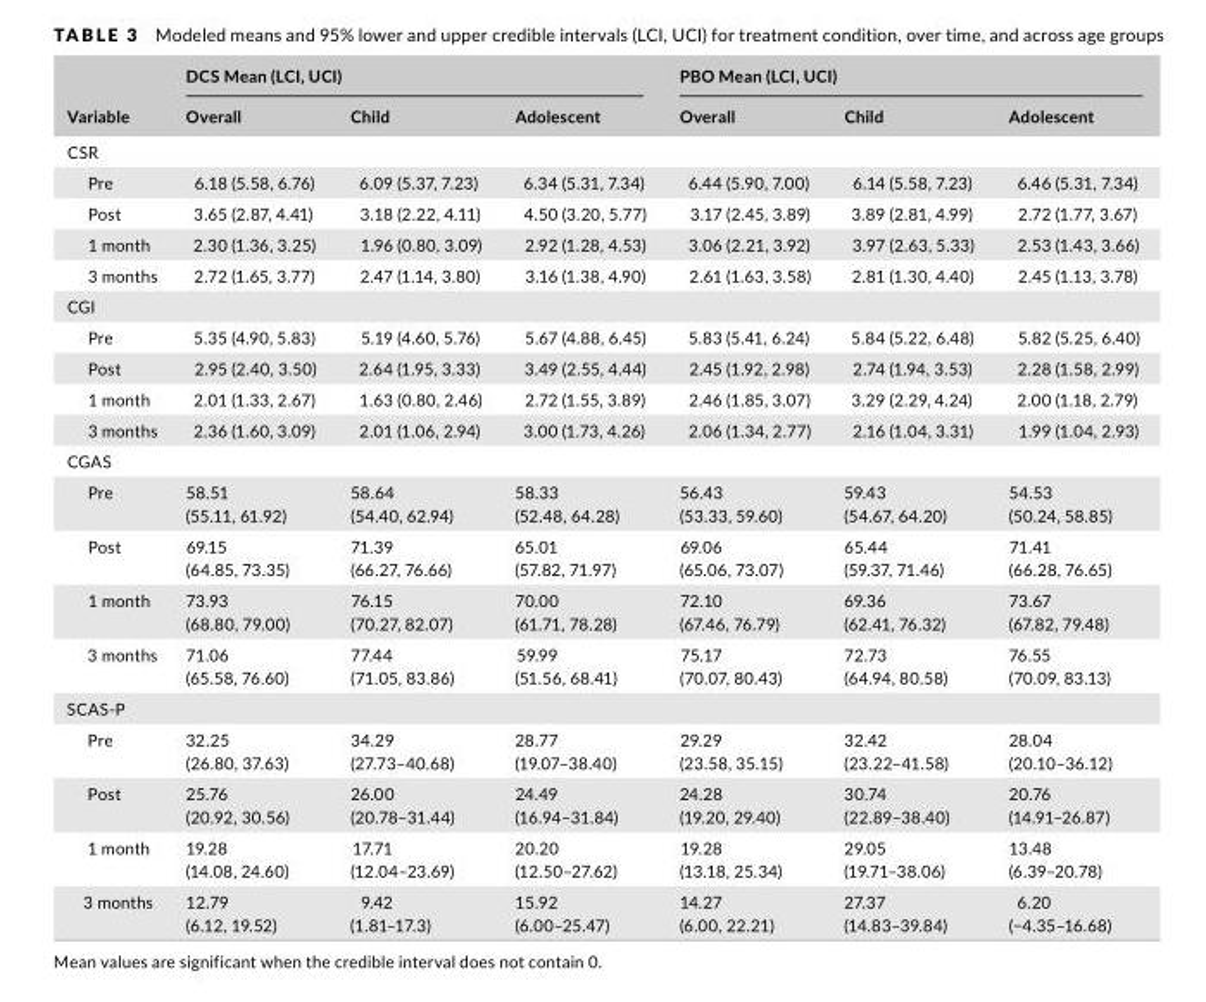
<table><thead><tr><td rowspan="2">Variable</td><td colspan="3">DCS Mean (LCI, UCI)</td><td colspan="3">PBO Mean (LCI, UCI)</td></tr><tr><td>Overall</td><td>Child</td><td>Adolescent</td><td>Overall</td><td>Child</td><td>Adolescent</td></tr></thead><tbody><tr><td colspan="7">CSR</td></tr><tr><td>Pre</td><td>6.18 (5.58, 6.76)</td><td>6.09 (5.37, 7.23)</td><td>6.34 (5.31, 7.34)</td><td>6.44 (5.90, 7.00)</td><td>6.14 (5.58, 7.23)</td><td>6.46 (5.31, 7.34)</td></tr><tr><td>Post</td><td>3.65 (2.87, 4.41)</td><td>3.18 (2.22, 4.11)</td><td>4.50 (3.20, 5.77)</td><td>3.17 (2.45, 3.89)</td><td>3.89 (2.81, 4.99)</td><td>2.72 (1.77, 3.67)</td></tr><tr><td>1 month</td><td>2.30 (1.36, 3.25)</td><td>1.96 (0.80, 3.09)</td><td>2.92 (1.28, 4.53)</td><td>3.06 (2.21, 3.92)</td><td>3.97 (2.63, 5.33)</td><td>2.53 (1.43, 3.66)</td></tr><tr><td>3 months</td><td>2.72 (1.65, 3.77)</td><td>2.47 (1.14, 3.80)</td><td>3.16 (1.38, 4.90)</td><td>2.61 (1.63, 3.58)</td><td>2.81 (1.30, 4.40)</td><td>2.45 (1.13, 3.78)</td></tr><tr><td colspan="7">CGI</td></tr><tr><td>Pre</td><td>5.35 (4.90, 5.83)</td><td>5.19 (4.60, 5.76)</td><td>5.67 (4.88, 6.45)</td><td>5.83 (5.41, 6.24)</td><td>5.84 (5.22, 6.48)</td><td>5.82 (5.25, 6.40)</td></tr><tr><td>Post</td><td>2.95 (2.40, 3.50)</td><td>2.64 (1.95, 3.33)</td><td>3.49 (2.55, 4.44)</td><td>2.45 (1.92, 2.98)</td><td>2.74 (1.94, 3.53)</td><td>2.28 (1.58, 2.99)</td></tr><tr><td>1 month</td><td>2.01 (1.33, 2.67)</td><td>1.63 (0.80, 2.46)</td><td>2.72 (1.55, 3.89)</td><td>2.46 (1.85, 3.07)</td><td>3.29 (2.29, 4.24)</td><td>2.00 (1.18, 2.79)</td></tr><tr><td>3 months</td><td>2.36 (1.60, 3.09)</td><td>2.01 (1.06, 2.94)</td><td>3.00 (1.73, 4.26)</td><td>2.06 (1.34, 2.77)</td><td>2.16 (1.04, 3.31)</td><td>1.99 (1.04, 2.93)</td></tr><tr><td colspan="7">CGAS</td></tr><tr><td>Pre</td><td>58.51 (55.11, 61.92)</td><td>58.64 (54.40, 62.94)</td><td>58.33 (52.48, 64.28)</td><td>56.43 (53.33, 59.60)</td><td>59.43 (54.67, 64.20)</td><td>54.53 (50.24, 58.85)</td></tr><tr><td>Post</td><td>69.15 (64.85, 73.35)</td><td>71.39 (66.27, 76.66)</td><td>65.01 (57.82, 71.97)</td><td>69.06 (65.06, 73.07)</td><td>65.44 (59.37, 71.46)</td><td>71.41 (66.28, 76.65)</td></tr><tr><td>1 month</td><td>73.93 (68.80, 79.00)</td><td>76.15 (70.27, 82.07)</td><td>70.00 (61.71, 78.28)</td><td>72.10 (67.46, 76.79)</td><td>69.36 (62.41, 76.32)</td><td>73.67 (67.82, 79.48)</td></tr><tr><td>3 months</td><td>71.06 (65.58, 76.60)</td><td>77.44 (71.05, 83.86)</td><td>59.99 (51.56, 68.41)</td><td>75.17 (70.07, 80.43)</td><td>72.73 (64.94, 80.58)</td><td>76.55 (70.09, 83.13)</td></tr><tr><td colspan="7">SCAS- P</td></tr><tr><td>Pre</td><td>32.25 (26.80, 37.63)</td><td>34.29 (27.73–40.68)</td><td>28.77 (19.07–38.40)</td><td>29.29 (23.58, 35.15)</td><td>32.42 (23.22–41.58)</td><td>28.04 (20.10–36.12)</td></tr><tr><td>Post</td><td>25.76 (20.92, 30.56)</td><td>26.00 (20.78–31.44)</td><td>24.49 (16.94–31.84)</td><td>24.28 (19.20, 29.40)</td><td>30.74 (22.89–38.40)</td><td>20.76 (14.91–26.87)</td></tr><tr><td>1 month</td><td>19.28 (14.08, 24.60)</td><td>17.71 (12.04–23.69)</td><td>20.20 (12.50–27.62)</td><td>19.28 (13.18, 25.34)</td><td>29.05 (19.71–38.06)</td><td>13.48 (6.39–20.78)</td></tr><tr><td>3 months</td><td>12.79 (6.12, 19.52)</td><td>9.42 (1.81–17.3)</td><td>15.92 (6.00–25.47)</td><td>14.27 (6.00, 22.21)</td><td>27.37 (14.83–39.84)</td><td>6.20 (−4.35–16.68)</td></tr></tbody></table>